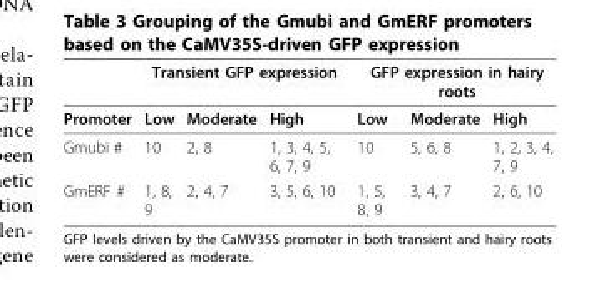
<table><thead><tr><td rowspan="2">Promoter</td><td colspan="3">Transient GFP expression</td><td colspan="3">GFP expression in hairy roots</td></tr><tr><td>Low</td><td>Moderate</td><td>High</td><td>Low</td><td>Moderate</td><td>High</td></tr></thead><tbody><tr><td>Gmubi #</td><td>10</td><td>2, 8</td><td>1, 3, 4, 5, 6, 7, 9</td><td>10</td><td>5, 6, 8</td><td>1, 2, 3, 4, 7, 9</td></tr><tr><td>GmERF #</td><td>1, 8, 9</td><td>2, 4, 7</td><td>3, 5, 6, 10</td><td>1, 5, 8, 9</td><td>3, 4, 7</td><td>2, 6, 10</td></tr></tbody></table>